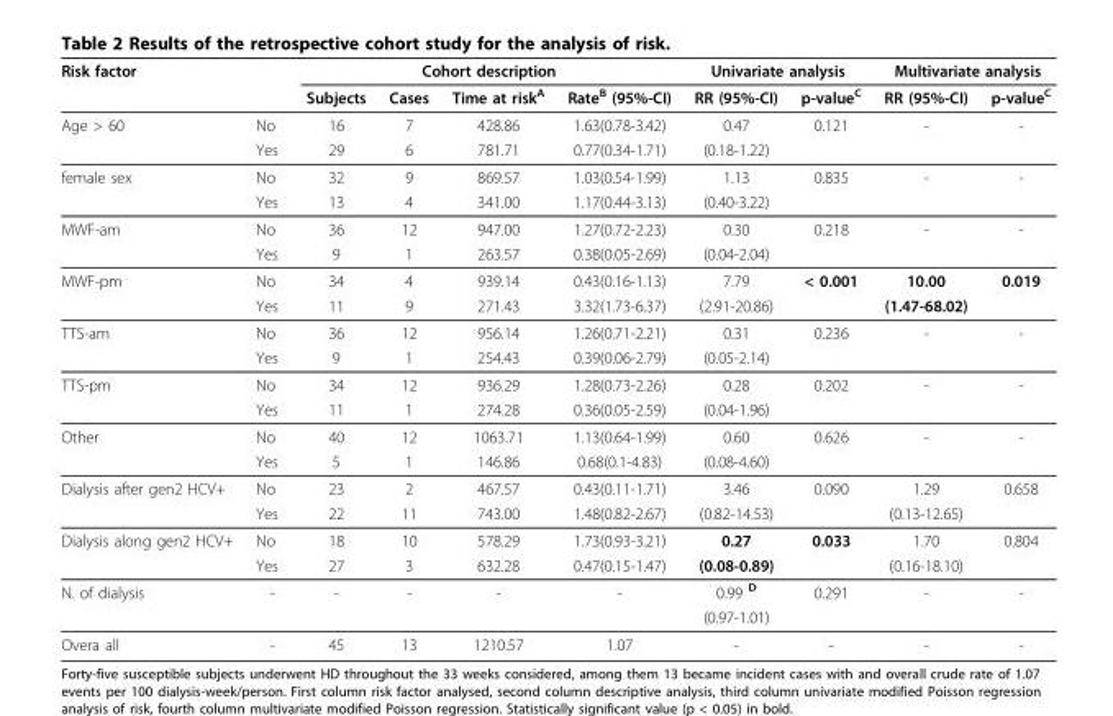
<table><thead><tr><td rowspan="2">Risk factor</td><td rowspan="2"></td><td colspan="4">Cohort description</td><td colspan="2">Univariate analysis</td><td colspan="2">Multivariate analysis</td></tr><tr><td>Subjects</td><td>Cases</td><td>Time at risk<sup>A</sup></td><td>Rate<sup>B</sup> (95%-CI)</td><td>RR (95%-CI)</td><td>p-value<sup>C</sup></td><td>RR (95%-CI)</td><td>p-value<sup>C</sup></td></tr></thead><tbody><tr><td rowspan="2">Age &gt; 60</td><td>No</td><td>16</td><td>7</td><td>428.86</td><td>1.63(0.78-3.42)</td><td>0.47</td><td>0.121</td><td>-</td><td>-</td></tr><tr><td>Yes</td><td>29</td><td>6</td><td>781.71</td><td>0.77(0.34-1.71)</td><td>(0.18-1.22)</td><td></td><td></td><td></td></tr><tr><td rowspan="2">female sex</td><td>No</td><td>32</td><td>9</td><td>869.57</td><td>1.03(0.54-1.99)</td><td>1.13</td><td>0.835</td><td>-</td><td>-</td></tr><tr><td>Yes</td><td>13</td><td>4</td><td>341.00</td><td>1.17(0.44-3.13)</td><td>(0.40-3.22)</td><td></td><td></td><td></td></tr><tr><td rowspan="2">MWF-am</td><td>No</td><td>36</td><td>12</td><td>947.00</td><td>1.27(0.72-2.23)</td><td>0.30</td><td>0.218</td><td>-</td><td>-</td></tr><tr><td>Yes</td><td>9</td><td>1</td><td>263.57</td><td>0.38(0.05-2.69)</td><td>(0.04-2.04)</td><td></td><td></td><td></td></tr><tr><td rowspan="2">MWF-pm</td><td>No</td><td>34</td><td>4</td><td>939.14</td><td>0.43(0.16-1.13)</td><td>7.79</td><td>&lt; 0.001</td><td>10.00</td><td>0.019</td></tr><tr><td>Yes</td><td>11</td><td>9</td><td>271.43</td><td>3.32(1.73-6.37)</td><td>(2.91-20.86)</td><td></td><td>(1.47-68.02)</td><td></td></tr><tr><td rowspan="2">TTS-am</td><td>No</td><td>36</td><td>12</td><td>956.14</td><td>1.26(0.71-2.21)</td><td>0.31</td><td>0.236</td><td>-</td><td>-</td></tr><tr><td>Yes</td><td>9</td><td>1</td><td>254.43</td><td>0.39(0.06-2.79)</td><td>(0.05-2.14)</td><td></td><td></td><td></td></tr><tr><td rowspan="2">TTS-pm</td><td>No</td><td>34</td><td>12</td><td>936.29</td><td>1.28(0.73-2.26)</td><td>0.28</td><td>0.202</td><td>-</td><td>-</td></tr><tr><td>Yes</td><td>11</td><td>1</td><td>274.28</td><td>0.36(0.05-2.59)</td><td>(0.04-1.96)</td><td></td><td></td><td></td></tr><tr><td rowspan="2">Other</td><td>No</td><td>40</td><td>12</td><td>1063.71</td><td>1.13(0.64-1.99)</td><td>0.60</td><td>0.626</td><td>-</td><td>-</td></tr><tr><td>Yes</td><td>5</td><td>1</td><td>146.86</td><td>0.68(0.1-4.83)</td><td>(0.08-4.60)</td><td></td><td></td><td></td></tr><tr><td rowspan="2">Dialysis after gen2 HCV+</td><td>No</td><td>23</td><td>2</td><td>467.57</td><td>0.43(0.11-1.71)</td><td>3.46</td><td>0.090</td><td>1.29</td><td>0.658</td></tr><tr><td>Yes</td><td>22</td><td>11</td><td>743.00</td><td>1.48(0.82-2.67)</td><td>(0.82-14.53)</td><td></td><td>(0.13-12.65)</td><td></td></tr><tr><td rowspan="2">Dialysis along gen2 HCV+</td><td>No</td><td>18</td><td>10</td><td>578.29</td><td>1.73(0.93-3.21)</td><td>0.27</td><td>0.033</td><td>1.70</td><td>0.804</td></tr><tr><td>Yes</td><td>27</td><td>3</td><td>632.28</td><td>0.47(0.15-1.47)</td><td>(0.08-0.89)</td><td></td><td>(0.16-18.10)</td><td></td></tr><tr><td rowspan="2">N. of dialysis</td><td>-</td><td>-</td><td>-</td><td>-</td><td>-</td><td>0.99 <sup>D</sup></td><td>0.291</td><td>-</td><td>-</td></tr><tr><td></td><td></td><td></td><td></td><td></td><td>(0.97-1.01)</td><td></td><td></td><td></td></tr><tr><td>Overa all</td><td>-</td><td>45</td><td>13</td><td>1210.57</td><td>1.07</td><td>-</td><td>-</td><td>-</td><td>-</td></tr></tbody></table>